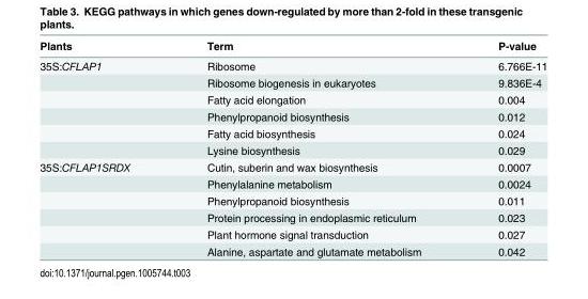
<table><thead><tr><td>Plants</td><td>Term</td><td>P-value</td></tr></thead><tbody><tr><td rowspan="6">35S:CFLAP1</td><td>Ribosome</td><td>6.766E-11</td></tr><tr><td>Ribosome biogenesis in eukaryotes</td><td>9.836E-4</td></tr><tr><td>Fatty acid elongation</td><td>0.004</td></tr><tr><td>Phenylpropanoid biosynthesis</td><td>0.012</td></tr><tr><td>Fatty acid biosynthesis</td><td>0.024</td></tr><tr><td>Lysine biosynthesis</td><td>0.029</td></tr><tr><td rowspan="6">35S:CFLAP1SRDX</td><td>Cutin, suberin and wax biosynthesis</td><td>0.0007</td></tr><tr><td>Phenylalanine metabolism</td><td>0.0024</td></tr><tr><td>Phenylpropanoid biosynthesis</td><td>0.011</td></tr><tr><td>Protein processing in endoplasmic reticulum</td><td>0.023</td></tr><tr><td>Plant hormone signal transduction</td><td>0.027</td></tr><tr><td>Alanine, aspartate and glutamate metabolism</td><td>0.042</td></tr></tbody></table>